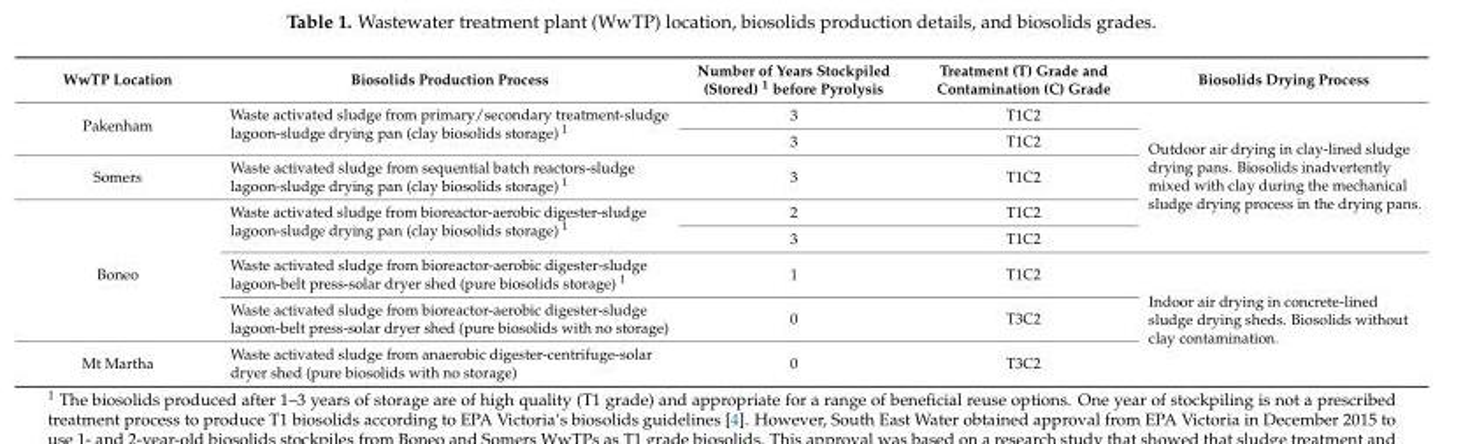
<table><thead><tr><td>WwTP Location</td><td>Biosolids Production Process</td><td>Number of Years Stockpiled (Stored) <sup>1</sup> before Pyrolysis</td><td>Treatment (T) Grade and Contamination (C) Grade</td><td>Biosolids Drying Process</td></tr></thead><tbody><tr><td rowspan="2">Pakenham</td><td rowspan="2">Waste activated sludge from primary/secondary treatment-sludge lagoon-sludge drying pan (clay biosolids storage) <sup>1</sup></td><td>3</td><td>T1C2</td><td rowspan="5">Outdoor air drying in clay-lined sludge drying pans. Biosolids inadvertently mixed with clay during the mechanical sludge drying process in the drying pans.</td></tr><tr><td>3</td><td>T1C2</td></tr><tr><td>Somers</td><td>Waste activated sludge from sequential batch reactors-sludge lagoon-sludge drying pan (clay biosolids storage) <sup>1</sup></td><td>3</td><td>T1C2</td></tr><tr><td rowspan="4">Boneo</td><td rowspan="2">Waste activated sludge from bioreactor-aerobic digester-sludge lagoon-sludge drying pan (clay biosolids storage) <sup>1</sup></td><td>2</td><td>T1C2</td></tr><tr><td>3</td><td>T1C2</td></tr><tr><td>Waste activated sludge from bioreactor-aerobic digester-sludge lagoon-belt press-solar dryer shed (pure biosolids storage) <sup>1</sup></td><td>1</td><td>T1C2</td><td rowspan="3">Indoor air drying in concrete-lined sludge drying sheds. Biosolids without clay contamination.</td></tr><tr><td>Waste activated sludge from bioreactor-aerobic digester-sludge lagoon-belt press-solar dryer shed (pure biosolids with no storage)</td><td>0</td><td>T3C2</td></tr><tr><td>Mt Martha</td><td>Waste activated sludge from anaerobic digester-centrifuge-solar dryer shed (pure biosolids with no storage)</td><td>0</td><td>T3C2</td></tr></tbody></table>